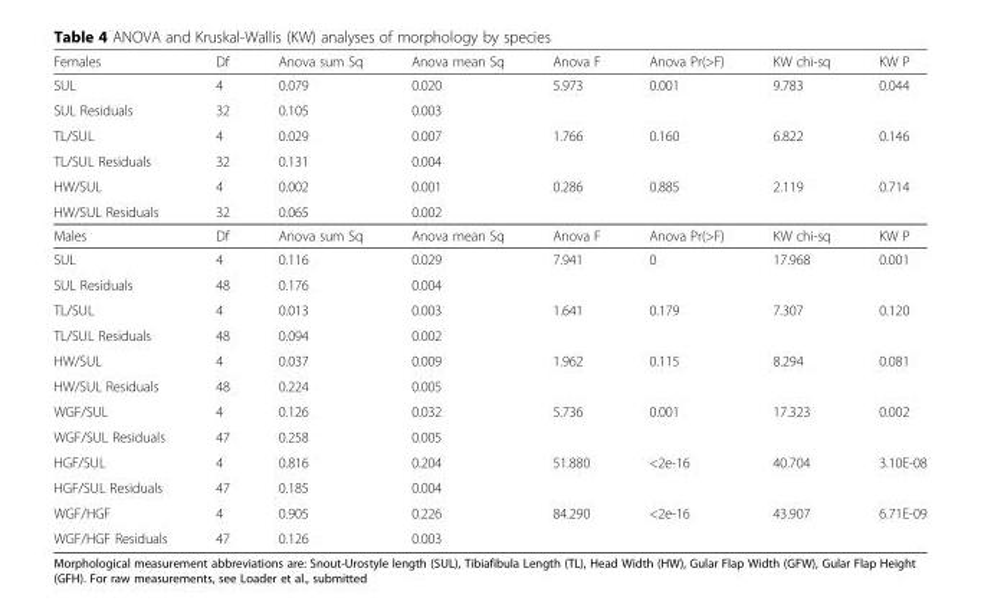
<table><thead><tr><td>Females</td><td>Df</td><td>Anova sum Sq</td><td>Anova mean Sq</td><td>Anova F</td><td>Anova Pr(&gt;F)</td><td>KW chi-sq</td><td>KW P</td></tr></thead><tbody><tr><td>SUL</td><td>4</td><td>0.079</td><td>0.020</td><td>5.973</td><td>0.001</td><td>9.783</td><td>0.044</td></tr><tr><td>SUL Residuals</td><td>32</td><td>0.105</td><td>0.003</td><td></td><td></td><td></td><td></td></tr><tr><td>TL/SUL</td><td>4</td><td>0.029</td><td>0.007</td><td>1.766</td><td>0.160</td><td>6.822</td><td>0.146</td></tr><tr><td>TL/SUL Residuals</td><td>32</td><td>0.131</td><td>0.004</td><td></td><td></td><td></td><td></td></tr><tr><td>HW/SUL</td><td>4</td><td>0.002</td><td>0.001</td><td>0.286</td><td>0.885</td><td>2.119</td><td>0.714</td></tr><tr><td>HW/SUL Residuals</td><td>32</td><td>0.065</td><td>0.002</td><td></td><td></td><td></td><td></td></tr><tr><td>Males</td><td>Df</td><td>Anova sum Sq</td><td>Anova mean Sq</td><td>Anova F</td><td>Anova Pr(&gt;F)</td><td>KW chi-sq</td><td>KW P</td></tr><tr><td>SUL</td><td>4</td><td>0.116</td><td>0.029</td><td>7.941</td><td>0</td><td>17.968</td><td>0.001</td></tr><tr><td>SUL Residuals</td><td>48</td><td>0.176</td><td>0.004</td><td></td><td></td><td></td><td></td></tr><tr><td>TL/SUL</td><td>4</td><td>0.013</td><td>0.003</td><td>1.641</td><td>0.179</td><td>7.307</td><td>0.120</td></tr><tr><td>TL/SUL Residuals</td><td>48</td><td>0.094</td><td>0.002</td><td></td><td></td><td></td><td></td></tr><tr><td>HW/SUL</td><td>4</td><td>0.037</td><td>0.009</td><td>1.962</td><td>0.115</td><td>8.294</td><td>0.081</td></tr><tr><td>HW/SUL Residuals</td><td>48</td><td>0.224</td><td>0.005</td><td></td><td></td><td></td><td></td></tr><tr><td>WGF/SUL</td><td>4</td><td>0.126</td><td>0.032</td><td>5.736</td><td>0.001</td><td>17.323</td><td>0.002</td></tr><tr><td>WGF/SUL Residuals</td><td>47</td><td>0.258</td><td>0.005</td><td></td><td></td><td></td><td></td></tr><tr><td>HGF/SUL</td><td>4</td><td>0.816</td><td>0.204</td><td>51.880</td><td>&lt;2e-16</td><td>40.704</td><td>3.10E-08</td></tr><tr><td>HGF/SUL Residuals</td><td>47</td><td>0.185</td><td>0.004</td><td></td><td></td><td></td><td></td></tr><tr><td>WGF/HGF</td><td>4</td><td>0.905</td><td>0.226</td><td>84.290</td><td>&lt;2e-16</td><td>43.907</td><td>6.71E-09</td></tr><tr><td>WGF/HGF Residuals</td><td>47</td><td>0.126</td><td>0.003</td><td></td><td></td><td></td><td></td></tr></tbody></table>